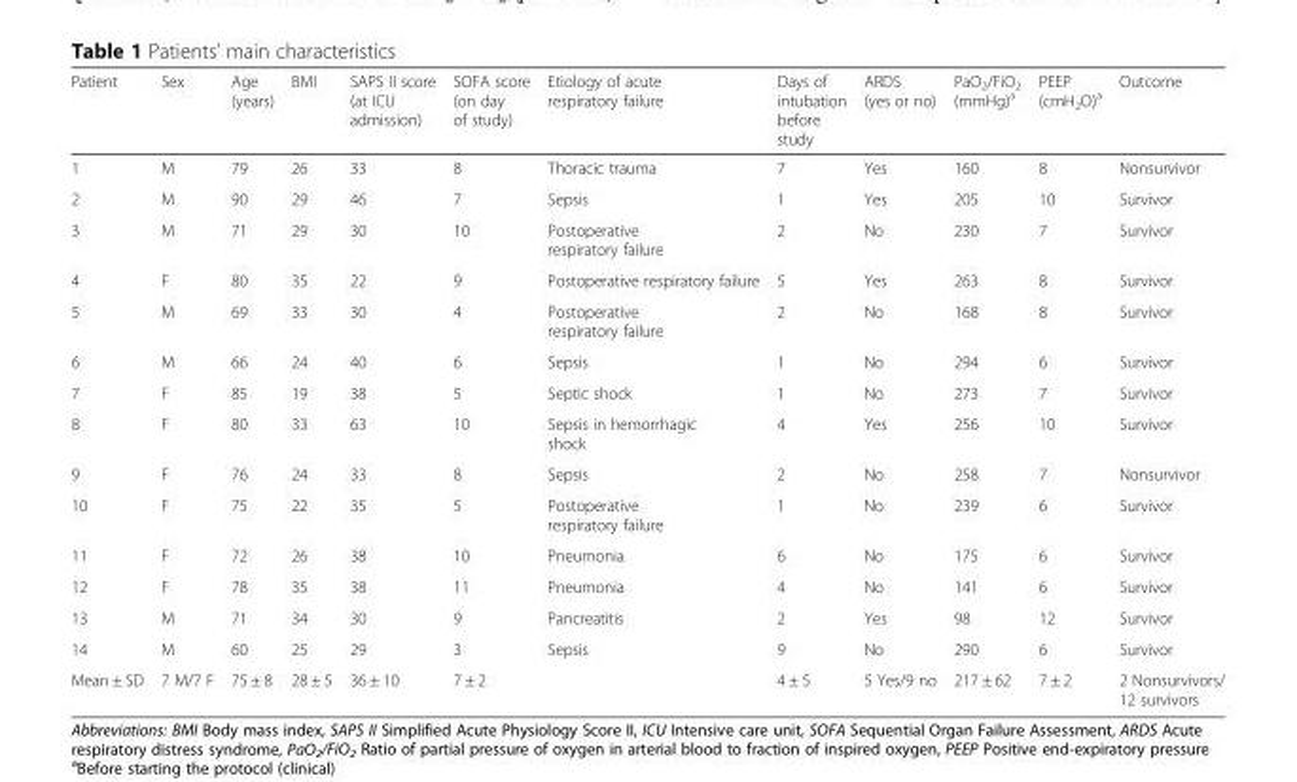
<table><thead><tr><td>Patient</td><td>Sex</td><td>Age (years)</td><td>BMI</td><td>SAPS II score (at ICU admission)</td><td>SOFA score (on day of study)</td><td>Etiology of acute respiratory failure</td><td>Days of intubation before study</td><td>ARDS (yes or no)</td><td>PaO<sub>2</sub>/FiO<sub>2</sub> (mmHg)<sup>a</sup></td><td>PEEP (cmH<sub>2</sub>O)<sup>a</sup></td><td>Outcome</td></tr></thead><tbody><tr><td>1</td><td>M</td><td>79</td><td>26</td><td>33</td><td>8</td><td>Thoracic trauma</td><td>7</td><td>Yes</td><td>160</td><td>8</td><td>Nonsurvivor</td></tr><tr><td>2</td><td>M</td><td>90</td><td>29</td><td>46</td><td>7</td><td>Sepsis</td><td>1</td><td>Yes</td><td>205</td><td>10</td><td>Survivor</td></tr><tr><td>3</td><td>M</td><td>71</td><td>29</td><td>30</td><td>10</td><td>Postoperative respiratory failure</td><td>2</td><td>No</td><td>230</td><td>7</td><td>Survivor</td></tr><tr><td>4</td><td>F</td><td>80</td><td>35</td><td>22</td><td>9</td><td>Postoperative respiratory failure</td><td>5</td><td>Yes</td><td>263</td><td>8</td><td>Survivor</td></tr><tr><td>5</td><td>M</td><td>69</td><td>33</td><td>30</td><td>4</td><td>Postoperative respiratory failure</td><td>2</td><td>No</td><td>168</td><td>8</td><td>Survivor</td></tr><tr><td>6</td><td>M</td><td>66</td><td>24</td><td>40</td><td>6</td><td>Sepsis</td><td>1</td><td>No</td><td>294</td><td>6</td><td>Survivor</td></tr><tr><td>7</td><td>F</td><td>85</td><td>19</td><td>38</td><td>5</td><td>Septic shock</td><td>1</td><td>No</td><td>273</td><td>7</td><td>Survivor</td></tr><tr><td>8</td><td>F</td><td>80</td><td>33</td><td>63</td><td>10</td><td>Sepsis in hemorrhagic shock</td><td>4</td><td>Yes</td><td>256</td><td>10</td><td>Survivor</td></tr><tr><td>9</td><td>F</td><td>76</td><td>24</td><td>33</td><td>8</td><td>Sepsis</td><td>2</td><td>No</td><td>258</td><td>7</td><td>Nonsurvivor</td></tr><tr><td>10</td><td>F</td><td>75</td><td>22</td><td>35</td><td>5</td><td>Postoperative respiratory failure</td><td>1</td><td>No</td><td>239</td><td>6</td><td>Survivor</td></tr><tr><td>11</td><td>F</td><td>72</td><td>26</td><td>38</td><td>10</td><td>Pneumonia</td><td>6</td><td>No</td><td>175</td><td>6</td><td>Survivor</td></tr><tr><td>12</td><td>F</td><td>78</td><td>35</td><td>38</td><td>11</td><td>Pneumonia</td><td>4</td><td>No</td><td>141</td><td>6</td><td>Survivor</td></tr><tr><td>13</td><td>M</td><td>71</td><td>34</td><td>30</td><td>9</td><td>Pancreatitis</td><td>2</td><td>Yes</td><td>98</td><td>12</td><td>Survivor</td></tr><tr><td>14</td><td>M</td><td>60</td><td>25</td><td>29</td><td>3</td><td>Sepsis</td><td>9</td><td>No</td><td>290</td><td>6</td><td>Survivor</td></tr><tr><td>Mean ± SD</td><td>7 M/7 F</td><td>75 ± 8</td><td>28 ± 5</td><td>36 ± 10</td><td>7 ± 2</td><td></td><td>4 ± 5</td><td>5 Yes/9 no</td><td>217 ± 62</td><td>7 ± 2</td><td>2 Nonsurvivors/ 12 survivors</td></tr></tbody></table>